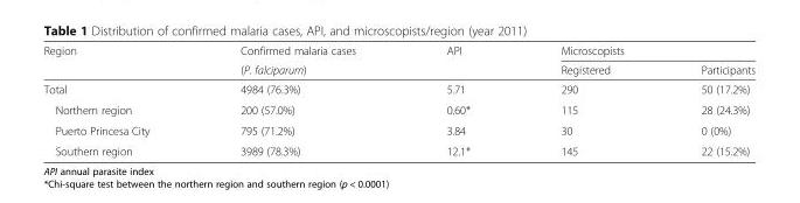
<table><thead><tr><td rowspan="2">Region</td><td rowspan="2">Confirmed malaria cases (P. falciparum)</td><td rowspan="2">API</td><td colspan="2">Microscopists</td></tr><tr><td>Registered</td><td>Participants</td></tr></thead><tbody><tr><td>Total</td><td>4984 (76.3%)</td><td>5.71</td><td>290</td><td>50 (17.2%)</td></tr><tr><td>Northern region</td><td>200 (57.0%)</td><td>0.60*</td><td>115</td><td>28 (24.3%)</td></tr><tr><td>Puerto Princesa City</td><td>795 (71.2%)</td><td>3.84</td><td>30</td><td>0 (0%)</td></tr><tr><td>Southern region</td><td>3989 (78.3%)</td><td>12.1*</td><td>145</td><td>22 (15.2%)</td></tr></tbody></table>